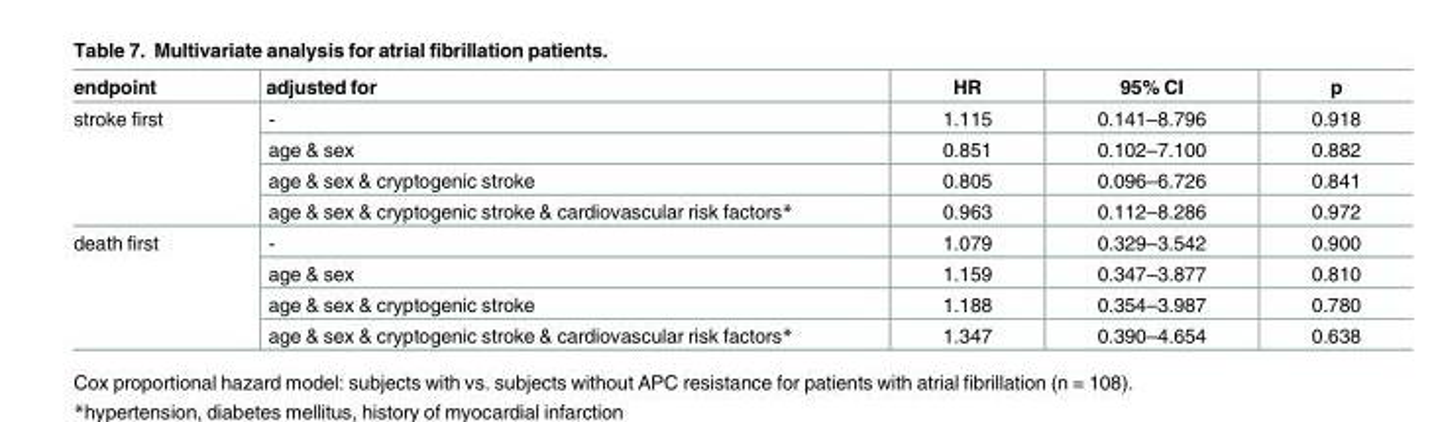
<table><thead><tr><td>endpoint</td><td>adjusted for</td><td>HR</td><td>95% CI</td><td>p</td></tr></thead><tbody><tr><td rowspan="4">stroke first</td><td>-</td><td>1.115</td><td>0.141–8.796</td><td>0.918</td></tr><tr><td>age &amp; sex</td><td>0.851</td><td>0.102–7.100</td><td>0.882</td></tr><tr><td>age &amp; sex &amp; cryptogenic stroke</td><td>0.805</td><td>0.096–6.726</td><td>0.841</td></tr><tr><td>age &amp; sex &amp; cryptogenic stroke &amp; cardiovascular risk factors*</td><td>0.963</td><td>0.112–8.286</td><td>0.972</td></tr><tr><td rowspan="4">death first</td><td>-</td><td>1.079</td><td>0.329–3.542</td><td>0.900</td></tr><tr><td>age &amp; sex</td><td>1.159</td><td>0.347–3.877</td><td>0.810</td></tr><tr><td>age &amp; sex &amp; cryptogenic stroke</td><td>1.188</td><td>0.354–3.987</td><td>0.780</td></tr><tr><td>age &amp; sex &amp; cryptogenic stroke &amp; cardiovascular risk factors*</td><td>1.347</td><td>0.390–4.654</td><td>0.638</td></tr></tbody></table>